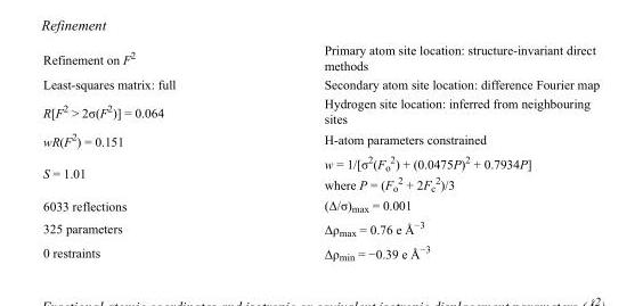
<table><tbody><tr><td>Refinement on F<sup>2</sup></td><td>Primary atom site location: structure-invariant direct methods</td></tr><tr><td>Least-squares matrix: full</td><td>Secondary atom site location: difference Fourier map</td></tr><tr><td>R[F<sup>2</sup> &gt; 2σ(F<sup>2</sup>)] = 0.064</td><td>Hydrogen site location: inferred from neighbouring sites</td></tr><tr><td>wR(F<sup>2</sup>) = 0.151</td><td>H-atom parameters constrained</td></tr><tr><td>S = 1.01</td><td>w = 1/[σ<sup>2</sup>(F<sub>o</sub> <sup>2</sup>) + (0.0475P)<sup>2</sup> + 0.7934P] where P = (F<sub>o</sub> <sup>2</sup> + 2F<sub>c</sub> <sup>2</sup>)/3</td></tr><tr><td>6033 reflections</td><td>(Δ/σ)<sub>max</sub> = 0.001</td></tr><tr><td>325 parameters</td><td>Δρ<sub>max</sub> = 0.76 e Å<sup>−3</sup></td></tr><tr><td>0 restraints</td><td>Δρ<sub>min</sub> = −0.39 e Å<sup>−3</sup></td></tr></tbody></table>